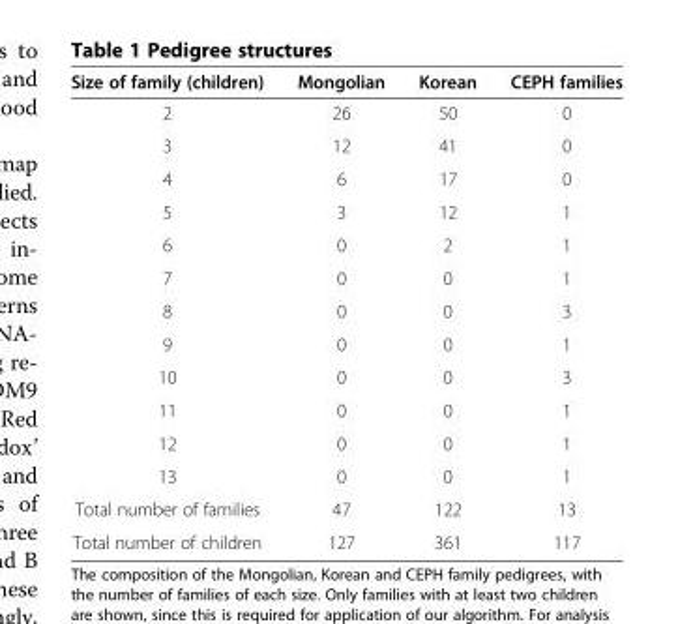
<table><thead><tr><td>Size of family (children)</td><td>Mongolian</td><td>Korean</td><td>CEPH families</td></tr></thead><tbody><tr><td>2</td><td>26</td><td>50</td><td>0</td></tr><tr><td>3</td><td>12</td><td>41</td><td>0</td></tr><tr><td>4</td><td>6</td><td>17</td><td>0</td></tr><tr><td>5</td><td>3</td><td>12</td><td>1</td></tr><tr><td>6</td><td>0</td><td>2</td><td>1</td></tr><tr><td>7</td><td>0</td><td>0</td><td>1</td></tr><tr><td>8</td><td>0</td><td>0</td><td>3</td></tr><tr><td>9</td><td>0</td><td>0</td><td>1</td></tr><tr><td>10</td><td>0</td><td>0</td><td>3</td></tr><tr><td>11</td><td>0</td><td>0</td><td>1</td></tr><tr><td>12</td><td>0</td><td>0</td><td>1</td></tr><tr><td>13</td><td>0</td><td>0</td><td>1</td></tr><tr><td>Total number of families</td><td>47</td><td>122</td><td>13</td></tr><tr><td>Total number of children</td><td>127</td><td>361</td><td>117</td></tr></tbody></table>